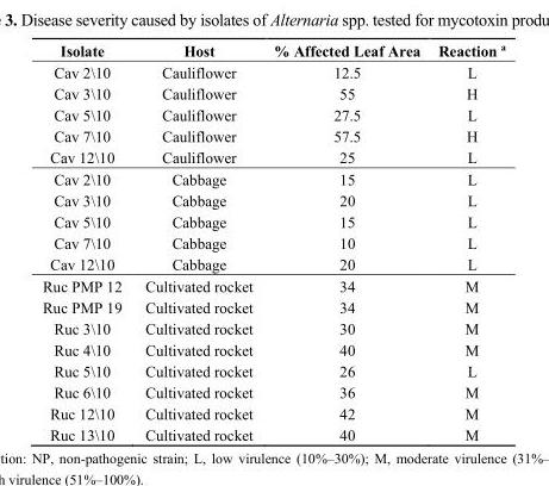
<table><thead><tr><td>Isolate</td><td>Host</td><td>% Affected Leaf Area</td><td>Reaction <sup>a</sup></td></tr></thead><tbody><tr><td>Cav 2\10</td><td>Cauliflower</td><td>12.5</td><td>L</td></tr><tr><td>Cav 3\10</td><td>Cauliflower</td><td>55</td><td>H</td></tr><tr><td>Cav 5\10</td><td>Cauliflower</td><td>27.5</td><td>L</td></tr><tr><td>Cav 7\10</td><td>Cauliflower</td><td>57.5</td><td>H</td></tr><tr><td>Cav 12\10</td><td>Cauliflower</td><td>25</td><td>L</td></tr><tr><td>Cav 2\10</td><td>Cabbage</td><td>15</td><td>L</td></tr><tr><td>Cav 3\10</td><td>Cabbage</td><td>20</td><td>L</td></tr><tr><td>Cav 5\10</td><td>Cabbage</td><td>15</td><td>L</td></tr><tr><td>Cav 7\10</td><td>Cabbage</td><td>10</td><td>L</td></tr><tr><td>Cav 12\10</td><td>Cabbage</td><td>20</td><td>L</td></tr><tr><td>Ruc PMP 12</td><td>Cultivated rocket</td><td>34</td><td>M</td></tr><tr><td>Ruc PMP 19</td><td>Cultivated rocket</td><td>34</td><td>M</td></tr><tr><td>Ruc 3\10</td><td>Cultivated rocket</td><td>30</td><td>M</td></tr><tr><td>Ruc 4\10</td><td>Cultivated rocket</td><td>40</td><td>M</td></tr><tr><td>Ruc 5\10</td><td>Cultivated rocket</td><td>26</td><td>L</td></tr><tr><td>Ruc 6\10</td><td>Cultivated rocket</td><td>36</td><td>M</td></tr><tr><td>Ruc 12\10</td><td>Cultivated rocket</td><td>42</td><td>M</td></tr><tr><td>Ruc 13\10</td><td>Cultivated rocket</td><td>40</td><td>M</td></tr></tbody></table>